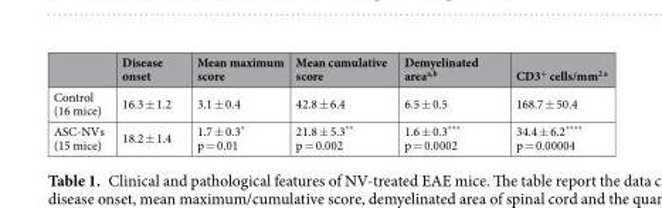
<table><thead><tr><td></td><td>Disease onset</td><td>Mean maximum score</td><td>Mean cumulative score</td><td>Demyelinated area<sup>a,b</sup></td><td>CD3<sup>+</sup> cells/mm<sup>2 a</sup></td></tr></thead><tbody><tr><td>Control (16 mice)</td><td>16.3 ± 1.2</td><td>3.1 ± 0.4</td><td>42.8 ± 6.4</td><td>6.5 ± 0.5</td><td>168.7 ± 50.4</td></tr><tr><td>ASC-NVs (15 mice)</td><td>18.2 ± 1.4</td><td>1.7 ± 0.3* p = 0.01</td><td>21.8 ± 5.3** p = 0.002</td><td>1.6 ± 0.3*** p = 0.0002</td><td>34.4 ± 6.2**** p = 0.00004</td></tr></tbody></table>